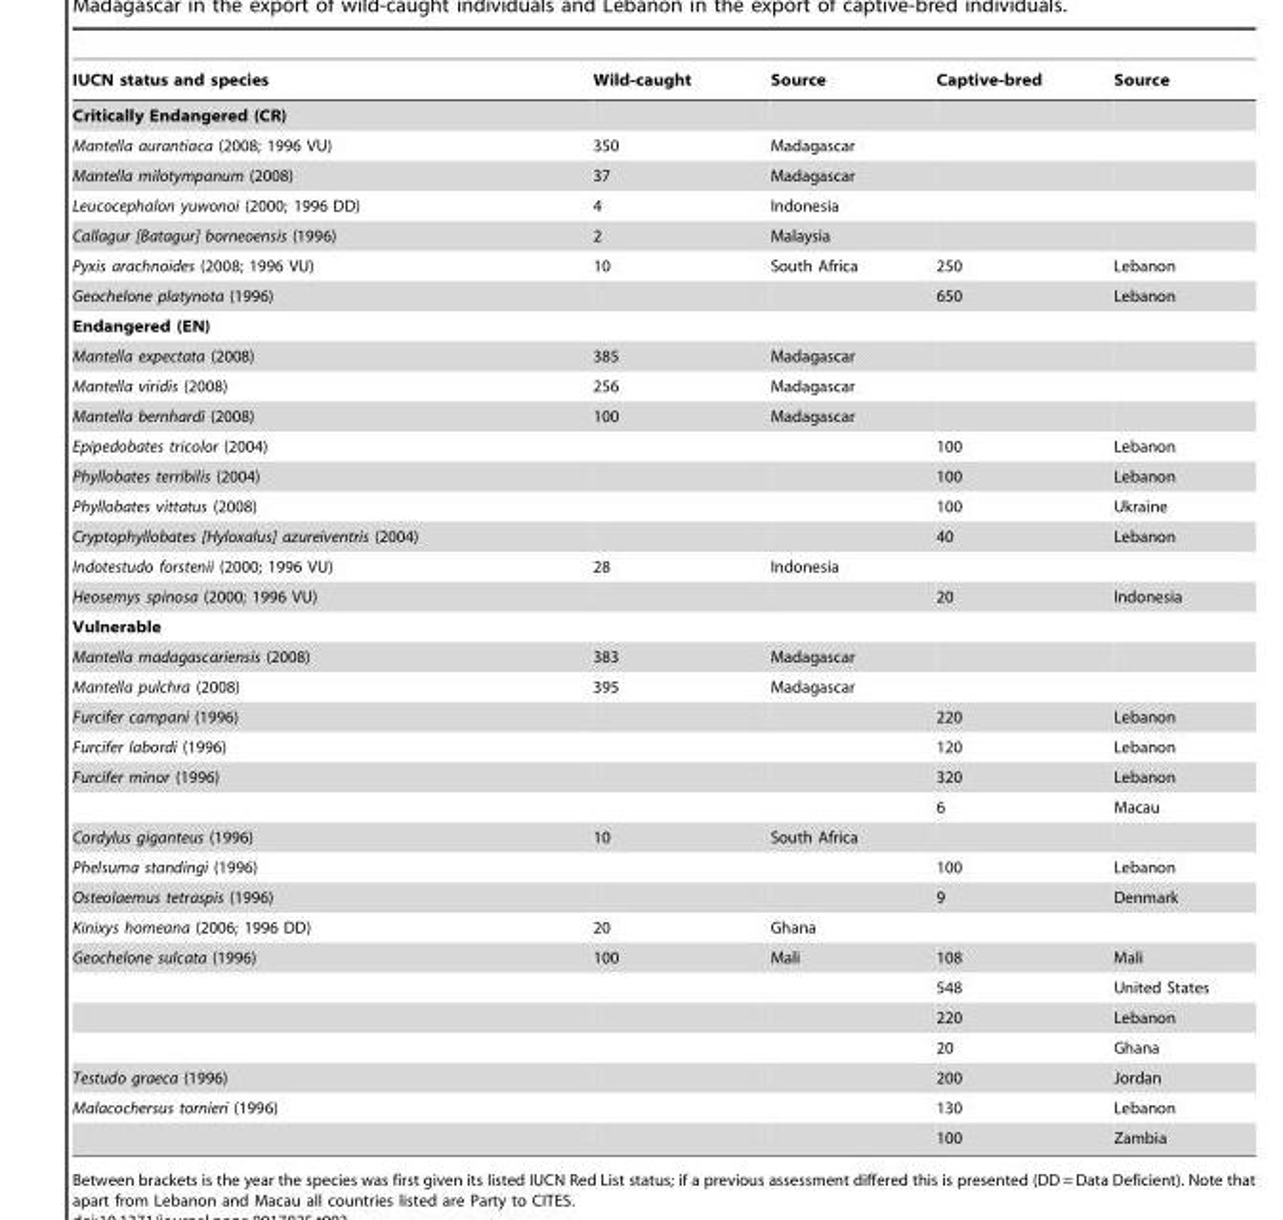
<table><thead><tr><td>IUCN status and species</td><td>Wild-caught</td><td>Source</td><td>Captive-bred</td><td>Source</td></tr></thead><tbody><tr><td colspan="5">Critically Endangered (CR)</td></tr><tr><td>Mantella aurantiaca (2008; 1996 VU)</td><td>350</td><td>Madagascar</td><td></td><td></td></tr><tr><td>Mantella milotympanum (2008)</td><td>37</td><td>Madagascar</td><td></td><td></td></tr><tr><td>Leucocephalon yuwonoi (2000; 1996 DD)</td><td>4</td><td>Indonesia</td><td></td><td></td></tr><tr><td>Callagur [Batagur] borneoensis (1996)</td><td>2</td><td>Malaysia</td><td></td><td></td></tr><tr><td>Pyxis arachnoides (2008; 1996 VU)</td><td>10</td><td>South Africa</td><td>250</td><td>Lebanon</td></tr><tr><td>Geochelone platynota (1996)</td><td></td><td></td><td>650</td><td>Lebanon</td></tr><tr><td colspan="5">Endangered (EN)</td></tr><tr><td>Mantella expectata (2008)</td><td>385</td><td>Madagascar</td><td></td><td></td></tr><tr><td>Mantella viridis (2008)</td><td>256</td><td>Madagascar</td><td></td><td></td></tr><tr><td>Mantella bernhardi (2008)</td><td>100</td><td>Madagascar</td><td></td><td></td></tr><tr><td>Epipedobates tricolor (2004)</td><td></td><td></td><td>100</td><td>Lebanon</td></tr><tr><td>Phyllobates terribilis (2004)</td><td></td><td></td><td>100</td><td>Lebanon</td></tr><tr><td>Phyllobates vittatus (2008)</td><td></td><td></td><td>100</td><td>Ukraine</td></tr><tr><td>Cryptophyllobates [Hyloxalus] azureiventris (2004)</td><td></td><td></td><td>40</td><td>Lebanon</td></tr><tr><td>Indotestudo forstenii (2000; 1996 VU)</td><td>28</td><td>Indonesia</td><td></td><td></td></tr><tr><td>Heosemys spinosa (2000; 1996 VU)</td><td></td><td></td><td>20</td><td>Indonesia</td></tr><tr><td colspan="5">Vulnerable</td></tr><tr><td>Mantella madagascariensis (2008)</td><td>383</td><td>Madagascar</td><td></td><td></td></tr><tr><td>Mantella pulchra (2008)</td><td>395</td><td>Madagascar</td><td></td><td></td></tr><tr><td>Furcifer campani (1996)</td><td></td><td></td><td>220</td><td>Lebanon</td></tr><tr><td>Furcifer labordi (1996)</td><td></td><td></td><td>120</td><td>Lebanon</td></tr><tr><td rowspan="2">Furcifer minor (1996)</td><td></td><td></td><td>320</td><td>Lebanon</td></tr><tr><td></td><td></td><td>6</td><td>Macau</td></tr><tr><td>Cordylus giganteus (1996)</td><td>10</td><td>South Africa</td><td></td><td></td></tr><tr><td>Phelsuma standingi (1996)</td><td></td><td></td><td>100</td><td>Lebanon</td></tr><tr><td>Osteolaemus tetraspis (1996)</td><td></td><td></td><td>9</td><td>Denmark</td></tr><tr><td>Kinixys homeana (2006; 1996 DD)</td><td>20</td><td>Ghana</td><td></td><td></td></tr><tr><td rowspan="4">Geochelone sulcata (1996)</td><td>100</td><td>Mali</td><td>108</td><td>Mali</td></tr><tr><td></td><td></td><td>548</td><td>United States</td></tr><tr><td></td><td></td><td>220</td><td>Lebanon</td></tr><tr><td></td><td></td><td>20</td><td>Ghana</td></tr><tr><td>Testudo graeca (1996)</td><td></td><td></td><td>200</td><td>Jordan</td></tr><tr><td rowspan="2">Malacochersus tornieri (1996)</td><td></td><td></td><td>130</td><td>Lebanon</td></tr><tr><td></td><td></td><td>100</td><td>Zambia</td></tr></tbody></table>